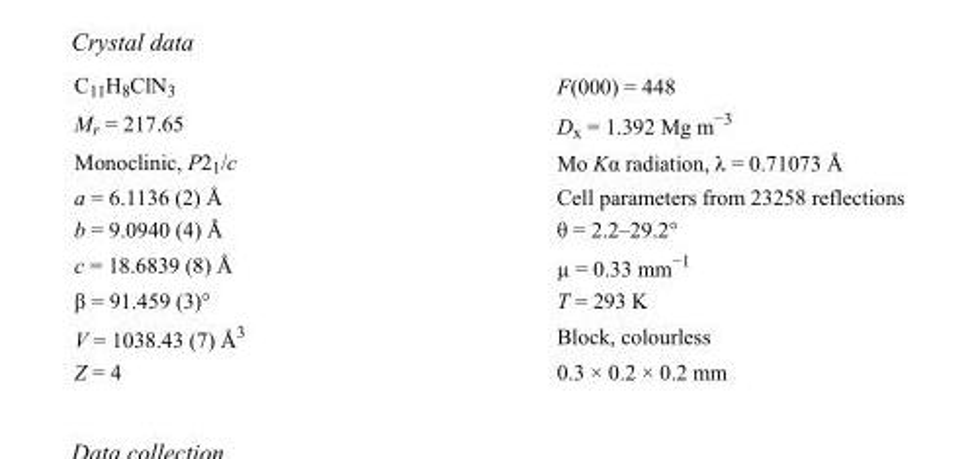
<table><tbody><tr><td>C<sub>11</sub>H<sub>8</sub>ClN<sub>3</sub></td><td>F(000) = 448</td></tr><tr><td>M<sub>r</sub> = 217.65</td><td>D<sub>x</sub> = 1.392 Mg m<sup>−3</sup></td></tr><tr><td>Monoclinic, P2<sub>1</sub>/c</td><td>Mo Kα radiation, λ = 0.71073 Å</td></tr><tr><td>a = 6.1136 (2) Å</td><td>Cell parameters from 23258 reflections</td></tr><tr><td>b = 9.0940 (4) Å</td><td>θ = 2.2–29.2°</td></tr><tr><td>c = 18.6839 (8) Å</td><td>µ = 0.33 mm<sup>−1</sup></td></tr><tr><td>β = 91.459 (3)°</td><td>T = 293 K</td></tr><tr><td>V = 1038.43 (7) Å<sup>3</sup></td><td>Block, colourless</td></tr><tr><td>Z = 4</td><td>0.3 × 0.2 × 0.2 mm</td></tr></tbody></table>